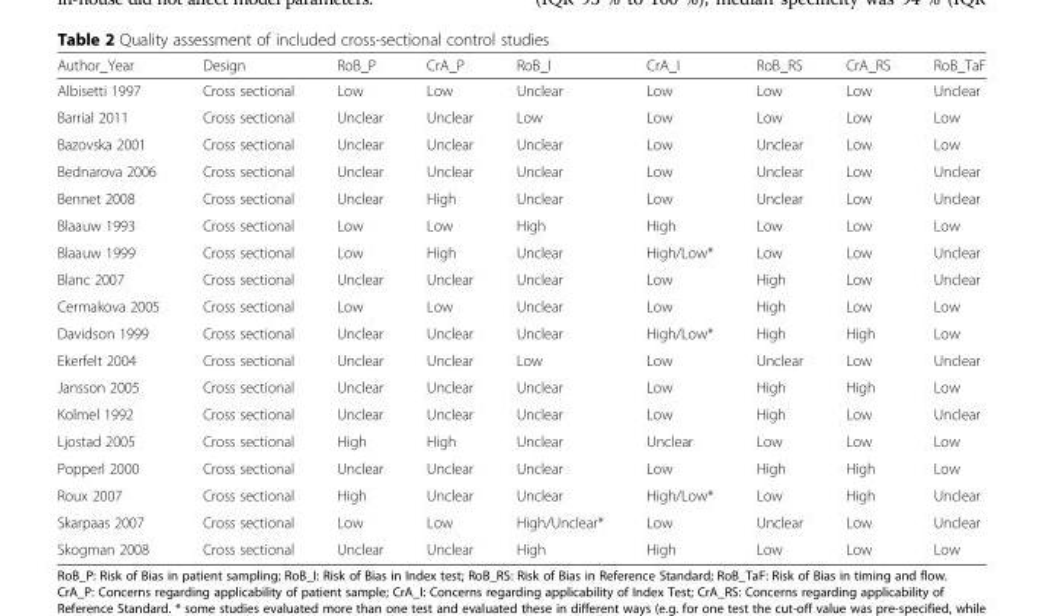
<table><thead><tr><td>Author_Year</td><td>Design</td><td>RoB_P</td><td>CrA_P</td><td>RoB_I</td><td>CrA_I</td><td>RoB_RS</td><td>CrA_RS</td><td>RoB_TaF</td></tr></thead><tbody><tr><td>Albisetti 1997</td><td>Cross sectional</td><td>Low</td><td>Low</td><td>Unclear</td><td>Low</td><td>Low</td><td>Low</td><td>Unclear</td></tr><tr><td>Barrial 2011</td><td>Cross sectional</td><td>Unclear</td><td>Unclear</td><td>Low</td><td>Low</td><td>Low</td><td>Low</td><td>Low</td></tr><tr><td>Bazovska 2001</td><td>Cross sectional</td><td>Unclear</td><td>Unclear</td><td>Unclear</td><td>Low</td><td>Unclear</td><td>Low</td><td>Low</td></tr><tr><td>Bednarova 2006</td><td>Cross sectional</td><td>Unclear</td><td>Unclear</td><td>Unclear</td><td>Low</td><td>Unclear</td><td>Low</td><td>Unclear</td></tr><tr><td>Bennet 2008</td><td>Cross sectional</td><td>Unclear</td><td>High</td><td>Unclear</td><td>Low</td><td>Unclear</td><td>Low</td><td>Unclear</td></tr><tr><td>Blaauw 1993</td><td>Cross sectional</td><td>Low</td><td>Low</td><td>High</td><td>High</td><td>Low</td><td>Low</td><td>Low</td></tr><tr><td>Blaauw 1999</td><td>Cross sectional</td><td>Low</td><td>High</td><td>Unclear</td><td>High/Low*</td><td>Low</td><td>Low</td><td>Unclear</td></tr><tr><td>Blanc 2007</td><td>Cross sectional</td><td>Unclear</td><td>Unclear</td><td>Unclear</td><td>Low</td><td>High</td><td>Low</td><td>Unclear</td></tr><tr><td>Cermakova 2005</td><td>Cross sectional</td><td>Low</td><td>Low</td><td>Unclear</td><td>Low</td><td>High</td><td>Low</td><td>Low</td></tr><tr><td>Davidson 1999</td><td>Cross sectional</td><td>Unclear</td><td>Unclear</td><td>Unclear</td><td>High/Low*</td><td>High</td><td>High</td><td>Low</td></tr><tr><td>Ekerfelt 2004</td><td>Cross sectional</td><td>Unclear</td><td>Unclear</td><td>Low</td><td>Low</td><td>Unclear</td><td>Low</td><td>Unclear</td></tr><tr><td>Jansson 2005</td><td>Cross sectional</td><td>Unclear</td><td>Unclear</td><td>Unclear</td><td>Low</td><td>High</td><td>High</td><td>Low</td></tr><tr><td>Kolmel 1992</td><td>Cross sectional</td><td>Unclear</td><td>Unclear</td><td>Unclear</td><td>Low</td><td>High</td><td>Low</td><td>Unclear</td></tr><tr><td>Ljostad 2005</td><td>Cross sectional</td><td>High</td><td>High</td><td>Unclear</td><td>Unclear</td><td>Low</td><td>Low</td><td>Low</td></tr><tr><td>Popperl 2000</td><td>Cross sectional</td><td>Unclear</td><td>Unclear</td><td>Unclear</td><td>Low</td><td>High</td><td>High</td><td>Low</td></tr><tr><td>Roux 2007</td><td>Cross sectional</td><td>High</td><td>Unclear</td><td>Unclear</td><td>High/Low*</td><td>Low</td><td>High</td><td>Unclear</td></tr><tr><td>Skarpaas 2007</td><td>Cross sectional</td><td>Low</td><td>Low</td><td>High/Unclear*</td><td>Low</td><td>Unclear</td><td>Low</td><td>Unclear</td></tr><tr><td>Skogman 2008</td><td>Cross sectional</td><td>Unclear</td><td>Unclear</td><td>High</td><td>High</td><td>Low</td><td>Low</td><td>Low</td></tr></tbody></table>